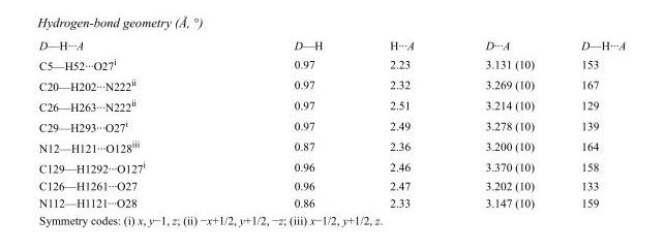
<table><tbody><tr><td>D—H···A</td><td>D—H</td><td>H···A</td><td>D···A</td><td>D—H···A</td></tr><tr><td>C5—H52···O27<sup>i</sup></td><td>0.97</td><td>2.23</td><td>3.131 (10)</td><td>153</td></tr><tr><td>C20—H202···N222<sup>ii</sup></td><td>0.97</td><td>2.32</td><td>3.269 (10)</td><td>167</td></tr><tr><td>C26—H263···N222<sup>ii</sup></td><td>0.97</td><td>2.51</td><td>3.214 (10)</td><td>129</td></tr><tr><td>C29—H293···O27<sup>i</sup></td><td>0.97</td><td>2.49</td><td>3.278 (10)</td><td>139</td></tr><tr><td>N12—H121···O128<sup>iii</sup></td><td>0.87</td><td>2.36</td><td>3.200 (10)</td><td>164</td></tr><tr><td>C129—H1292···O127<sup>i</sup></td><td>0.96</td><td>2.46</td><td>3.370 (10)</td><td>158</td></tr><tr><td>C126—H1261···O27</td><td>0.96</td><td>2.47</td><td>3.202 (10)</td><td>133</td></tr><tr><td>N112—H1121···O28</td><td>0.86</td><td>2.33</td><td>3.147 (10)</td><td>159</td></tr></tbody></table>